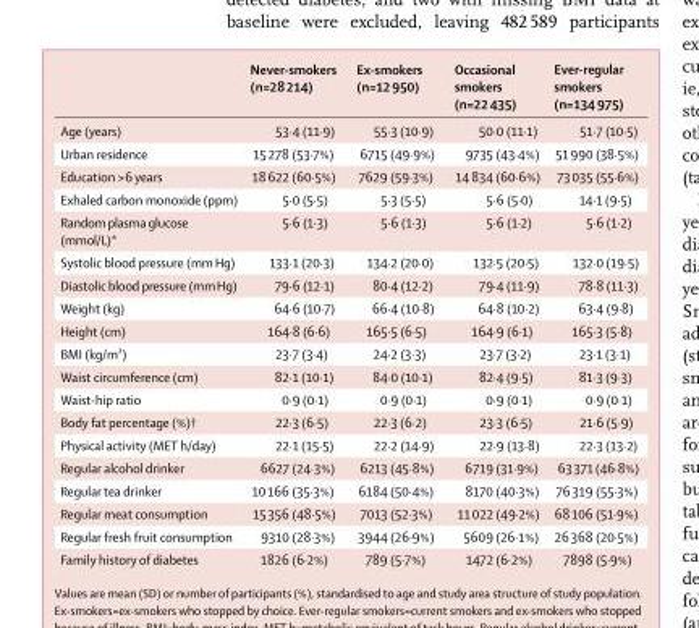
<table><thead><tr><td></td><td>Never-smokers (n=28 214)</td><td>Ex-smokers (n=12 950)</td><td>Occasional smokers (n=22 435)</td><td>Ever-regular smokers (n=134 975)</td></tr></thead><tbody><tr><td>Age (years)</td><td>53·4 (11·9)</td><td>55·3 (10·9)</td><td>50·0 (11·1)</td><td>51·7 (10·5)</td></tr><tr><td>Urban residence</td><td>15 278 (53·7%)</td><td>6715 (49·9%)</td><td>9735 (43·4%)</td><td>51 990 (38·5%)</td></tr><tr><td>Education &gt;6 years</td><td>18 622 (60·5%)</td><td>7629 (59·3%)</td><td>14 834 (60·6%)</td><td>73 035 (55·6%)</td></tr><tr><td>Exhaled carbon monoxide (ppm)</td><td>5·0 (5·5)</td><td>5·3 (5·5)</td><td>5·6 (5·0)</td><td>14·1 (9·5)</td></tr><tr><td>Random plasma glucose (mmol/L)*</td><td>5·6 (1·3)</td><td>5·6 (1·3)</td><td>5·6 (1·2)</td><td>5·6 (1·2)</td></tr><tr><td>Systolic blood pressure (mm Hg)</td><td>133·1 (20·3)</td><td>134·2 (20·0)</td><td>132·5 (20·5)</td><td>132·0 (19·5)</td></tr><tr><td>Diastolic blood pressure (mm Hg)</td><td>79·6 (12·1)</td><td>80·4 (12·2)</td><td>79·4 (11·9)</td><td>78·8 (11·3)</td></tr><tr><td>Weight (kg)</td><td>64·6 (10·7)</td><td>66·4 (10·8)</td><td>64·8 (10·2)</td><td>63·4 (9·8)</td></tr><tr><td>Height (cm)</td><td>164·8 (6·6)</td><td>165·5 (6·5)</td><td>164·9 (6·1)</td><td>165·3 (5·8)</td></tr><tr><td>BMI (kg/m²)</td><td>23·7 (3·4)</td><td>24·2 (3·3)</td><td>23·7 (3·2)</td><td>23·1 (3·1)</td></tr><tr><td>Waist circumference (cm)</td><td>82·1 (10·1)</td><td>84·0 (10·1)</td><td>82·4 (9·5)</td><td>81·3 (9·3)</td></tr><tr><td>Waist-hip ratio</td><td>0·9 (0·1)</td><td>0·9 (0·1)</td><td>0·9 (0·1)</td><td>0·9 (0·1)</td></tr><tr><td>Body fat percentage (%)†</td><td>22·3 (6·5)</td><td>22·3 (6·2)</td><td>23·3 (6·5)</td><td>21·6 (5·9)</td></tr><tr><td>Physical activity (MET h/day)</td><td>22·1 (15·5)</td><td>22·2 (14·9)</td><td>22·9 (13·8)</td><td>22·3 (13·2)</td></tr><tr><td>Regular alcohol drinker</td><td>6627 (24·3%)</td><td>6213 (45·8%)</td><td>6719 (31·9%)</td><td>63 371 (46·8%)</td></tr><tr><td>Regular tea drinker</td><td>10 166 (35·3%)</td><td>6184 (50·4%)</td><td>8170 (40·3%)</td><td>76 319 (55·3%)</td></tr><tr><td>Regular meat consumption</td><td>15 356 (48·5%)</td><td>7013 (52·3%)</td><td>11 022 (49·2%)</td><td>68 106 (51·9%)</td></tr><tr><td>Regular fresh fruit consumption</td><td>9310 (28·3%)</td><td>3944 (26·9%)</td><td>5609 (26·1%)</td><td>26 368 (20·5%)</td></tr><tr><td>Family history of diabetes</td><td>1826 (6·2%)</td><td>789 (5·7%)</td><td>1472 (6·2%)</td><td>7898 (5·9%)</td></tr></tbody></table>